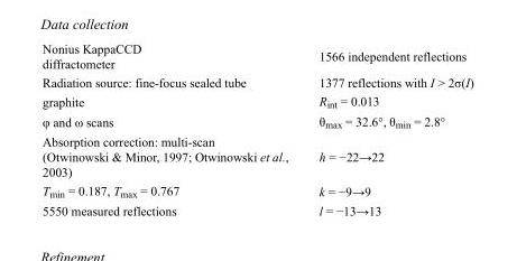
<table><tbody><tr><td>Nonius KappaCCD diffractometer</td><td>1566 independent reflections</td></tr><tr><td>Radiation source: fine-focus sealed tube</td><td>1377 reflections with I &gt; 2σ(I)</td></tr><tr><td>graphite</td><td>R<sub>int</sub> = 0.013</td></tr><tr><td>φ and ω scans</td><td>θ<sub>max</sub> = 32.6°, θ<sub>min</sub> = 2.8°</td></tr><tr><td>Absorption correction: multi-scan (Otwinowski &amp; Minor, 1997; Otwinowski et al., 2003)</td><td>h = −22→22</td></tr><tr><td>T<sub>min</sub> = 0.187, T<sub>max</sub> = 0.767</td><td>k = −9→9</td></tr><tr><td>5550 measured reflections</td><td>l = −13→13</td></tr></tbody></table>